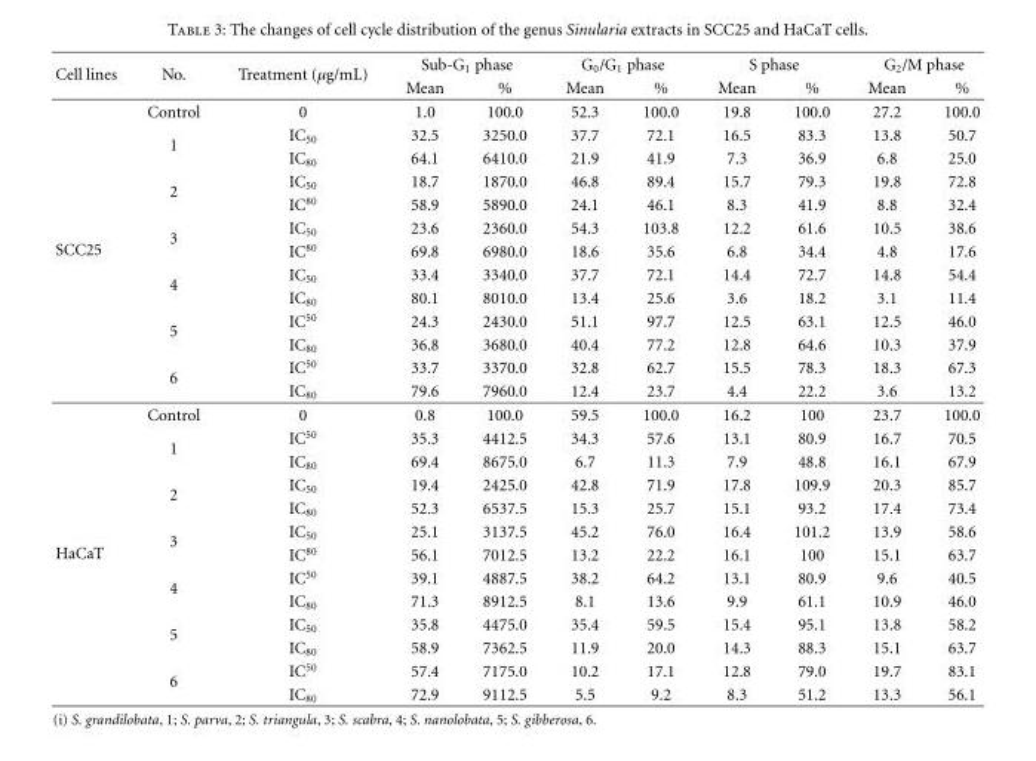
<table><thead><tr><td rowspan="2">Cell lines</td><td rowspan="2">No.</td><td rowspan="2">Treatment (μg/mL)</td><td colspan="2">Sub-G<sub>1</sub> phase</td><td colspan="2">G<sub>0</sub>/G<sub>1</sub> phase</td><td colspan="2">S phase</td><td colspan="2">G<sub>2</sub>/M phase</td></tr><tr><td>Mean</td><td>%</td><td>Mean</td><td>%</td><td>Mean</td><td>%</td><td>Mean</td><td>%</td></tr></thead><tbody><tr><td rowspan="13">SCC25</td><td>Control</td><td>0</td><td>1.0</td><td>100.0</td><td>52.3</td><td>100.0</td><td>19.8</td><td>100.0</td><td>27.2</td><td>100.0</td></tr><tr><td rowspan="2">1</td><td>IC<sub>50</sub></td><td>32.5</td><td>3250.0</td><td>37.7</td><td>72.1</td><td>16.5</td><td>83.3</td><td>13.8</td><td>50.7</td></tr><tr><td>IC<sub>80</sub></td><td>64.1</td><td>6410.0</td><td>21.9</td><td>41.9</td><td>7.3</td><td>36.9</td><td>6.8</td><td>25.0</td></tr><tr><td rowspan="2">2</td><td>IC<sub>50</sub></td><td>18.7</td><td>1870.0</td><td>46.8</td><td>89.4</td><td>15.7</td><td>79.3</td><td>19.8</td><td>72.8</td></tr><tr><td>IC<sup>80</sup></td><td>58.9</td><td>5890.0</td><td>24.1</td><td>46.1</td><td>8.3</td><td>41.9</td><td>8.8</td><td>32.4</td></tr><tr><td rowspan="2">3</td><td>IC<sub>50</sub></td><td>23.6</td><td>2360.0</td><td>54.3</td><td>103.8</td><td>12.2</td><td>61.6</td><td>10.5</td><td>38.6</td></tr><tr><td>IC<sup>80</sup></td><td>69.8</td><td>6980.0</td><td>18.6</td><td>35.6</td><td>6.8</td><td>34.4</td><td>4.8</td><td>17.6</td></tr><tr><td rowspan="2">4</td><td>IC<sub>50</sub></td><td>33.4</td><td>3340.0</td><td>37.7</td><td>72.1</td><td>14.4</td><td>72.7</td><td>14.8</td><td>54.4</td></tr><tr><td>IC<sub>80</sub></td><td>80.1</td><td>8010.0</td><td>13.4</td><td>25.6</td><td>3.6</td><td>18.2</td><td>3.1</td><td>11.4</td></tr><tr><td rowspan="2">5</td><td>IC<sup>50</sup></td><td>24.3</td><td>2430.0</td><td>51.1</td><td>97.7</td><td>12.5</td><td>63.1</td><td>12.5</td><td>46.0</td></tr><tr><td>IC<sub>80</sub></td><td>36.8</td><td>3680.0</td><td>40.4</td><td>77.2</td><td>12.8</td><td>64.6</td><td>10.3</td><td>37.9</td></tr><tr><td rowspan="2">6</td><td>IC<sup>50</sup></td><td>33.7</td><td>3370.0</td><td>32.8</td><td>62.7</td><td>15.5</td><td>78.3</td><td>18.3</td><td>67.3</td></tr><tr><td>IC<sub>80</sub></td><td>79.6</td><td>7960.0</td><td>12.4</td><td>23.7</td><td>4.4</td><td>22.2</td><td>3.6</td><td>13.2</td></tr><tr><td rowspan="13">HaCaT</td><td>Control</td><td>0</td><td>0.8</td><td>100.0</td><td>59.5</td><td>100.0</td><td>16.2</td><td>100</td><td>23.7</td><td>100.0</td></tr><tr><td rowspan="2">1</td><td>IC<sup>50</sup></td><td>35.3</td><td>4412.5</td><td>34.3</td><td>57.6</td><td>13.1</td><td>80.9</td><td>16.7</td><td>70.5</td></tr><tr><td>IC<sub>80</sub></td><td>69.4</td><td>8675.0</td><td>6.7</td><td>11.3</td><td>7.9</td><td>48.8</td><td>16.1</td><td>67.9</td></tr><tr><td rowspan="2">2</td><td>IC<sub>50</sub></td><td>19.4</td><td>2425.0</td><td>42.8</td><td>71.9</td><td>17.8</td><td>109.9</td><td>20.3</td><td>85.7</td></tr><tr><td>IC<sub>80</sub></td><td>52.3</td><td>6537.5</td><td>15.3</td><td>25.7</td><td>15.1</td><td>93.2</td><td>17.4</td><td>73.4</td></tr><tr><td rowspan="2">3</td><td>IC<sub>50</sub></td><td>25.1</td><td>3137.5</td><td>45.2</td><td>76.0</td><td>16.4</td><td>101.2</td><td>13.9</td><td>58.6</td></tr><tr><td>IC<sup>80</sup></td><td>56.1</td><td>7012.5</td><td>13.2</td><td>22.2</td><td>16.1</td><td>100</td><td>15.1</td><td>63.7</td></tr><tr><td rowspan="2">4</td><td>IC<sup>50</sup></td><td>39.1</td><td>4887.5</td><td>38.2</td><td>64.2</td><td>13.1</td><td>80.9</td><td>9.6</td><td>40.5</td></tr><tr><td>IC<sub>80</sub></td><td>71.3</td><td>8912.5</td><td>8.1</td><td>13.6</td><td>9.9</td><td>61.1</td><td>10.9</td><td>46.0</td></tr><tr><td rowspan="2">5</td><td>IC<sub>50</sub></td><td>35.8</td><td>4475.0</td><td>35.4</td><td>59.5</td><td>15.4</td><td>95.1</td><td>13.8</td><td>58.2</td></tr><tr><td>IC<sub>80</sub></td><td>58.9</td><td>7362.5</td><td>11.9</td><td>20.0</td><td>14.3</td><td>88.3</td><td>15.1</td><td>63.7</td></tr><tr><td rowspan="2">6</td><td>IC<sup>50</sup></td><td>57.4</td><td>7175.0</td><td>10.2</td><td>17.1</td><td>12.8</td><td>79.0</td><td>19.7</td><td>83.1</td></tr><tr><td>IC<sub>80</sub></td><td>72.9</td><td>9112.5</td><td>5.5</td><td>9.2</td><td>8.3</td><td>51.2</td><td>13.3</td><td>56.1</td></tr></tbody></table>